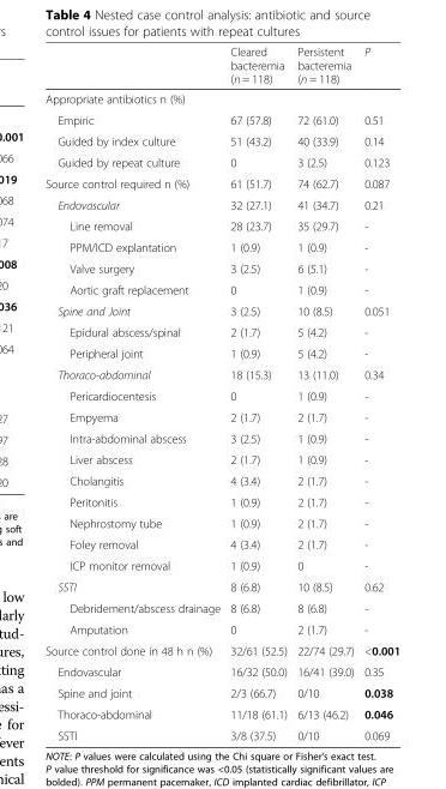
<table><thead><tr><td></td><td>Cleared bacteremia (n = 118)</td><td>Persistent bacteremia (n = 118)</td><td>P</td></tr></thead><tbody><tr><td colspan="4">Appropriate antibiotics n (%)</td></tr><tr><td>Empiric</td><td>67 (57.8)</td><td>72 (61.0)</td><td>0.51</td></tr><tr><td>Guided by index culture</td><td>51 (43.2)</td><td>40 (33.9)</td><td>0.14</td></tr><tr><td>Guided by repeat culture</td><td>0</td><td>3 (2.5)</td><td>0.123</td></tr><tr><td>Source control required n (%)</td><td>61 (51.7)</td><td>74 (62.7)</td><td>0.087</td></tr><tr><td>Endovascular</td><td>32 (27.1)</td><td>41 (34.7)</td><td>0.21</td></tr><tr><td>Line removal</td><td>28 (23.7)</td><td>35 (29.7)</td><td>-</td></tr><tr><td>PPM/ICD explantation</td><td>1 (0.9)</td><td>1 (0.9)</td><td>-</td></tr><tr><td>Valve surgery</td><td>3 (2.5)</td><td>6 (5.1)</td><td>-</td></tr><tr><td>Aortic graft replacement</td><td>0</td><td>1 (0.9)</td><td>-</td></tr><tr><td>Spine and Joint</td><td>3 (2.5)</td><td>10 (8.5)</td><td>0.051</td></tr><tr><td>Epidural abscess/spinal</td><td>2 (1.7)</td><td>5 (4.2)</td><td>-</td></tr><tr><td>Peripheral joint</td><td>1 (0.9)</td><td>5 (4.2)</td><td>-</td></tr><tr><td>Thoraco-abdominal</td><td>18 (15.3)</td><td>13 (11.0)</td><td>0.34</td></tr><tr><td>Pericardiocentesis</td><td>0</td><td>1 (0.9)</td><td>-</td></tr><tr><td>Empyema</td><td>2 (1.7)</td><td>2 (1.7)</td><td>-</td></tr><tr><td>Intra-abdominal abscess</td><td>3 (2.5)</td><td>1 (0.9)</td><td>-</td></tr><tr><td>Liver abscess</td><td>2 (1.7)</td><td>1 (0.9)</td><td>-</td></tr><tr><td>Cholangitis</td><td>4 (3.4)</td><td>2 (1.7)</td><td>-</td></tr><tr><td>Peritonitis</td><td>1 (0.9)</td><td>2 (1.7)</td><td>-</td></tr><tr><td>Nephrostomy tube</td><td>1 (0.9)</td><td>2 (1.7)</td><td>-</td></tr><tr><td>Foley removal</td><td>4 (3.4)</td><td>2 (1.7)</td><td>-</td></tr><tr><td>ICP monitor removal</td><td>1 (0.9)</td><td>0</td><td>-</td></tr><tr><td>SSTI</td><td>8 (6.8)</td><td>10 (8.5)</td><td>0.62</td></tr><tr><td>Debridement/abscess drainage</td><td>8 (6.8)</td><td>8 (6.8)</td><td>-</td></tr><tr><td>Amputation</td><td>0</td><td>2 (1.7)</td><td>-</td></tr><tr><td>Source control done in 48 h n (%)</td><td>32/61 (52.5)</td><td>22/74 (29.7)</td><td>&lt;0.001</td></tr><tr><td>Endovascular</td><td>16/32 (50.0)</td><td>16/41 (39.0)</td><td>0.35</td></tr><tr><td>Spine and joint</td><td>2/3 (66.7)</td><td>0/10</td><td>0.038</td></tr><tr><td>Thoraco-abdominal</td><td>11/18 (61.1)</td><td>6/13 (46.2)</td><td>0.046</td></tr><tr><td>SSTI</td><td>3/8 (37.5)</td><td>0/10</td><td>0.069</td></tr></tbody></table>